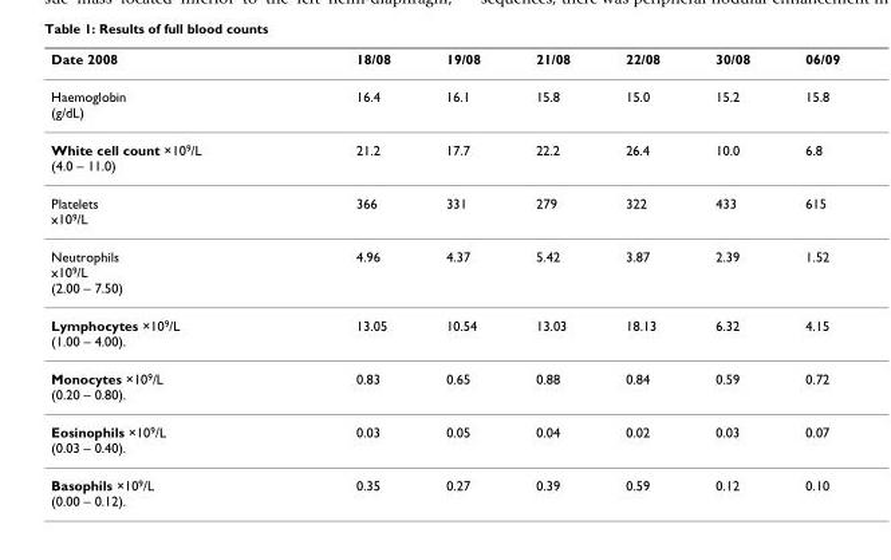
<table><thead><tr><td>Date 2008</td><td>18/08</td><td>19/08</td><td>21/08</td><td>22/08</td><td>30/08</td><td>06/09</td></tr></thead><tbody><tr><td>Haemoglobin (g/dL)</td><td>16.4</td><td>16.1</td><td>15.8</td><td>15.0</td><td>15.2</td><td>15.8</td></tr><tr><td>White cell count ×10<sup>9</sup>/L (4.0 – 11.0)</td><td>21.2</td><td>17.7</td><td>22.2</td><td>26.4</td><td>10.0</td><td>6.8</td></tr><tr><td>Platelets x10<sup>9</sup>/L</td><td>366</td><td>331</td><td>279</td><td>322</td><td>433</td><td>615</td></tr><tr><td>Neutrophils x10<sup>9</sup>/L (2.00 – 7.50)</td><td>4.96</td><td>4.37</td><td>5.42</td><td>3.87</td><td>2.39</td><td>1.52</td></tr><tr><td>Lymphocytes ×10<sup>9</sup>/L (1.00 – 4.00).</td><td>13.05</td><td>10.54</td><td>13.03</td><td>18.13</td><td>6.32</td><td>4.15</td></tr><tr><td>Monocytes ×10<sup>9</sup>/L (0.20 – 0.80).</td><td>0.83</td><td>0.65</td><td>0.88</td><td>0.84</td><td>0.59</td><td>0.72</td></tr><tr><td>Eosinophils ×10<sup>9</sup>/L (0.03 – 0.40).</td><td>0.03</td><td>0.05</td><td>0.04</td><td>0.02</td><td>0.03</td><td>0.07</td></tr><tr><td>Basophils ×10<sup>9</sup>/L (0.00 – 0.12).</td><td>0.35</td><td>0.27</td><td>0.39</td><td>0.59</td><td>0.12</td><td>0.10</td></tr></tbody></table>